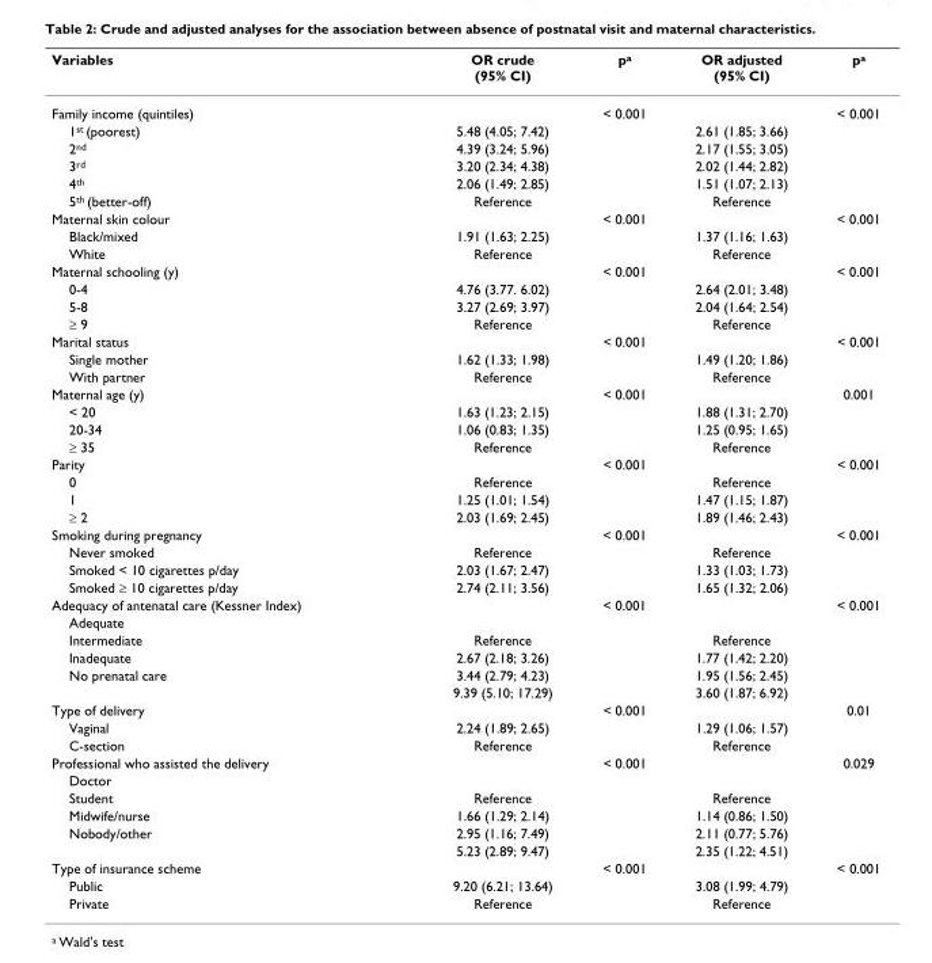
<table><thead><tr><td>Variables</td><td>OR crude (95% CI)</td><td>p<sup>a</sup></td><td>OR adjusted (95% CI)</td><td>p<sup>a</sup></td></tr></thead><tbody><tr><td>Family income (quintiles)</td><td></td><td>&lt; 0.001</td><td></td><td>&lt; 0.001</td></tr><tr><td>1<sup>st</sup> (poorest)</td><td>5.48 (4.05; 7.42)</td><td></td><td>2.61 (1.85; 3.66)</td><td></td></tr><tr><td>2<sup>nd</sup></td><td>4.39 (3.24; 5.96)</td><td></td><td>2.17 (1.55; 3.05)</td><td></td></tr><tr><td>3<sup>rd</sup></td><td>3.20 (2.34; 4.38)</td><td></td><td>2.02 (1.44; 2.82)</td><td></td></tr><tr><td>4<sup>th</sup></td><td>2.06 (1.49; 2.85)</td><td></td><td>1.51 (1.07; 2.13)</td><td></td></tr><tr><td>5<sup>th</sup> (better-off)</td><td>Reference</td><td></td><td>Reference</td><td></td></tr><tr><td>Maternal skin colour</td><td></td><td>&lt; 0.001</td><td></td><td>&lt; 0.001</td></tr><tr><td>Black/mixed</td><td>1.91 (1.63; 2.25)</td><td></td><td>1.37 (1.16; 1.63)</td><td></td></tr><tr><td>White</td><td>Reference</td><td></td><td>Reference</td><td></td></tr><tr><td>Maternal schooling (y)</td><td></td><td>&lt; 0.001</td><td></td><td>&lt; 0.001</td></tr><tr><td>0-4</td><td>4.76 (3.77. 6.02)</td><td></td><td>2.64 (2.01; 3.48)</td><td></td></tr><tr><td>5-8</td><td>3.27 (2.69; 3.97)</td><td></td><td>2.04 (1.64; 2.54)</td><td></td></tr><tr><td>≥ 9</td><td>Reference</td><td></td><td>Reference</td><td></td></tr><tr><td>Marital status</td><td></td><td>&lt; 0.001</td><td></td><td>&lt; 0.001</td></tr><tr><td>Single mother</td><td>1.62 (1.33; 1.98)</td><td></td><td>1.49 (1.20; 1.86)</td><td></td></tr><tr><td>With partner</td><td>Reference</td><td></td><td>Reference</td><td></td></tr><tr><td>Maternal age (y)</td><td></td><td>&lt; 0.001</td><td></td><td>0.001</td></tr><tr><td>&lt; 20</td><td>1.63 (1.23; 2.15)</td><td></td><td>1.88 (1.31; 2.70)</td><td></td></tr><tr><td>20-34</td><td>1.06 (0.83; 1.35)</td><td></td><td>1.25 (0.95; 1.65)</td><td></td></tr><tr><td>≥ 35</td><td>Reference</td><td></td><td>Reference</td><td></td></tr><tr><td>Parity</td><td></td><td>&lt; 0.001</td><td></td><td>&lt; 0.001</td></tr><tr><td>0</td><td>Reference</td><td></td><td>Reference</td><td></td></tr><tr><td>1</td><td>1.25 (1.01; 1.54)</td><td></td><td>1.47 (1.15; 1.87)</td><td></td></tr><tr><td>≥ 2</td><td>2.03 (1.69; 2.45)</td><td></td><td>1.89 (1.46; 2.43)</td><td></td></tr><tr><td>Smoking during pregnancy</td><td></td><td>&lt; 0.001</td><td></td><td>&lt; 0.001</td></tr><tr><td>Never smoked</td><td>Reference</td><td></td><td>Reference</td><td></td></tr><tr><td>Smoked &lt; 10 cigarettes p/day</td><td>2.03 (1.67; 2.47)</td><td></td><td>1.33 (1.03; 1.73)</td><td></td></tr><tr><td>Smoked ≥ 10 cigarettes p/day</td><td>2.74 (2.11; 3.56)</td><td></td><td>1.65 (1.32; 2.06)</td><td></td></tr><tr><td>Adequacy of antenatal care (Kessner Index)</td><td></td><td>&lt; 0.001</td><td></td><td>&lt; 0.001</td></tr><tr><td colspan="5">Adequate</td></tr><tr><td>Intermediate</td><td>Reference</td><td></td><td>Reference</td><td></td></tr><tr><td>Inadequate</td><td>2.67 (2.18; 3.26)</td><td></td><td>1.77 (1.42; 2.20)</td><td></td></tr><tr><td rowspan="2">No prenatal care</td><td>3.44 (2.79; 4.23)</td><td></td><td>1.95 (1.56; 2.45)</td><td></td></tr><tr><td>9.39 (5.10; 17.29)</td><td></td><td>3.60 (1.87; 6.92)</td><td></td></tr><tr><td>Type of delivery</td><td></td><td>&lt; 0.001</td><td></td><td>0.01</td></tr><tr><td>Vaginal</td><td>2.24 (1.89; 2.65)</td><td></td><td>1.29 (1.06; 1.57)</td><td></td></tr><tr><td>C-section</td><td>Reference</td><td></td><td>Reference</td><td></td></tr><tr><td>Professional who assisted the delivery</td><td></td><td>&lt; 0.001</td><td></td><td>0.029</td></tr><tr><td colspan="5">Doctor</td></tr><tr><td>Student</td><td>Reference</td><td></td><td>Reference</td><td></td></tr><tr><td>Midwife/nurse</td><td>1.66 (1.29; 2.14)</td><td></td><td>1.14 (0.86; 1.50)</td><td></td></tr><tr><td rowspan="2">Nobody/other</td><td>2.95 (1.16; 7.49)</td><td></td><td>2.11 (0.77; 5.76)</td><td></td></tr><tr><td>5.23 (2.89; 9.47)</td><td></td><td>2.35 (1.22; 4.51)</td><td></td></tr><tr><td>Type of insurance scheme</td><td></td><td>&lt; 0.001</td><td></td><td>&lt; 0.001</td></tr><tr><td>Public</td><td>9.20 (6.21; 13.64)</td><td></td><td>3.08 (1.99; 4.79)</td><td></td></tr><tr><td>Private</td><td>Reference</td><td></td><td>Reference</td><td></td></tr></tbody></table>